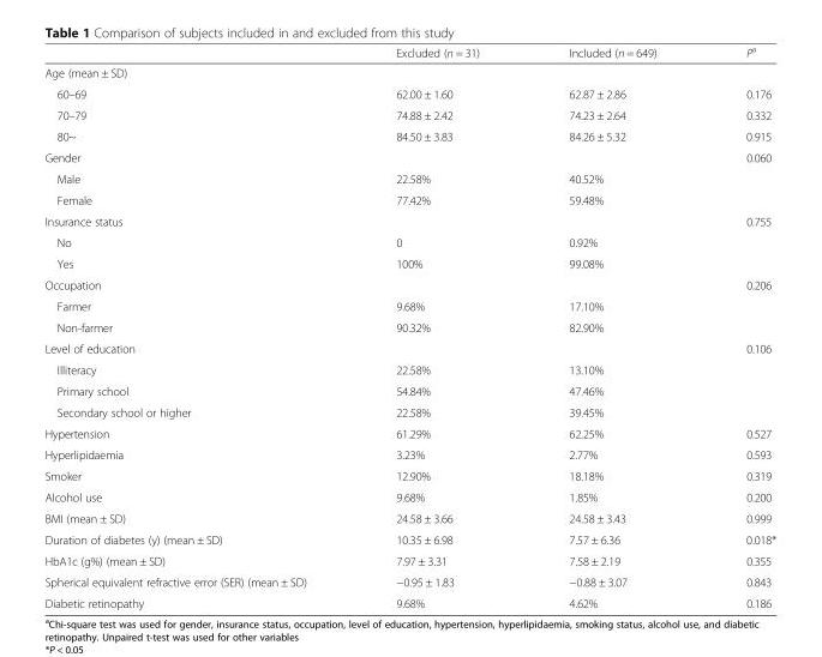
<table><thead><tr><td></td><td>Excluded (n = 31)</td><td>Included (n = 649)</td><td>P<sup>a</sup></td></tr></thead><tbody><tr><td colspan="4">Age (mean ± SD)</td></tr><tr><td>60–69</td><td>62.00 ± 1.60</td><td>62.87 ± 2.86</td><td>0.176</td></tr><tr><td>70–79</td><td>74.88 ± 2.42</td><td>74.23 ± 2.64</td><td>0.332</td></tr><tr><td>80~</td><td>84.50 ± 3.83</td><td>84.26 ± 5.32</td><td>0.915</td></tr><tr><td>Gender</td><td></td><td></td><td>0.060</td></tr><tr><td>Male</td><td>22.58%</td><td>40.52%</td><td></td></tr><tr><td>Female</td><td>77.42%</td><td>59.48%</td><td></td></tr><tr><td>Insurance status</td><td></td><td></td><td>0.755</td></tr><tr><td>No</td><td>0</td><td>0.92%</td><td></td></tr><tr><td>Yes</td><td>100%</td><td>99.08%</td><td></td></tr><tr><td>Occupation</td><td></td><td></td><td>0.206</td></tr><tr><td>Farmer</td><td>9.68%</td><td>17.10%</td><td></td></tr><tr><td>Non-farmer</td><td>90.32%</td><td>82.90%</td><td></td></tr><tr><td>Level of education</td><td></td><td></td><td>0.106</td></tr><tr><td>Illiteracy</td><td>22.58%</td><td>13.10%</td><td></td></tr><tr><td>Primary school</td><td>54.84%</td><td>47.46%</td><td></td></tr><tr><td>Secondary school or higher</td><td>22.58%</td><td>39.45%</td><td></td></tr><tr><td>Hypertension</td><td>61.29%</td><td>62.25%</td><td>0.527</td></tr><tr><td>Hyperlipidaemia</td><td>3.23%</td><td>2.77%</td><td>0.593</td></tr><tr><td>Smoker</td><td>12.90%</td><td>18.18%</td><td>0.319</td></tr><tr><td>Alcohol use</td><td>9.68%</td><td>1.85%</td><td>0.200</td></tr><tr><td>BMI (mean ± SD)</td><td>24.58 ± 3.66</td><td>24.58 ± 3.43</td><td>0.999</td></tr><tr><td>Duration of diabetes (y) (mean ± SD)</td><td>10.35 ± 6.98</td><td>7.57 ± 6.36</td><td>0.018*</td></tr><tr><td>HbA1c (g%) (mean ± SD)</td><td>7.97 ± 3.31</td><td>7.58 ± 2.19</td><td>0.355</td></tr><tr><td>Spherical equivalent refractive error (SER) (mean ± SD)</td><td>−0.95 ± 1.83</td><td>−0.88 ± 3.07</td><td>0.843</td></tr><tr><td>Diabetic retinopathy</td><td>9.68%</td><td>4.62%</td><td>0.186</td></tr></tbody></table>